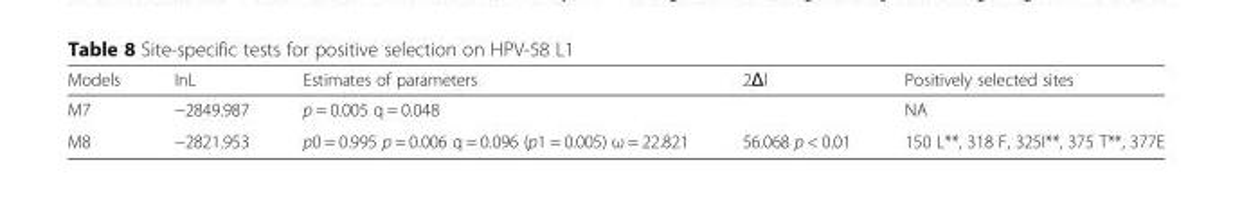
<table><thead><tr><td>Models</td><td>InL</td><td>Estimates of parameters</td><td>2Δl</td><td>Positively selected sites</td></tr></thead><tbody><tr><td>M7</td><td>−2849.987</td><td>p = 0.005 q = 0.048</td><td></td><td>NA</td></tr><tr><td>M8</td><td>−2821.953</td><td>p0 = 0.995 p = 0.006 q = 0.096 (p1 = 0.005) ω = 22.821</td><td>56.068 p &lt; 0.01</td><td>150 L**, 318 F, 325I**, 375 T**, 377E</td></tr></tbody></table>